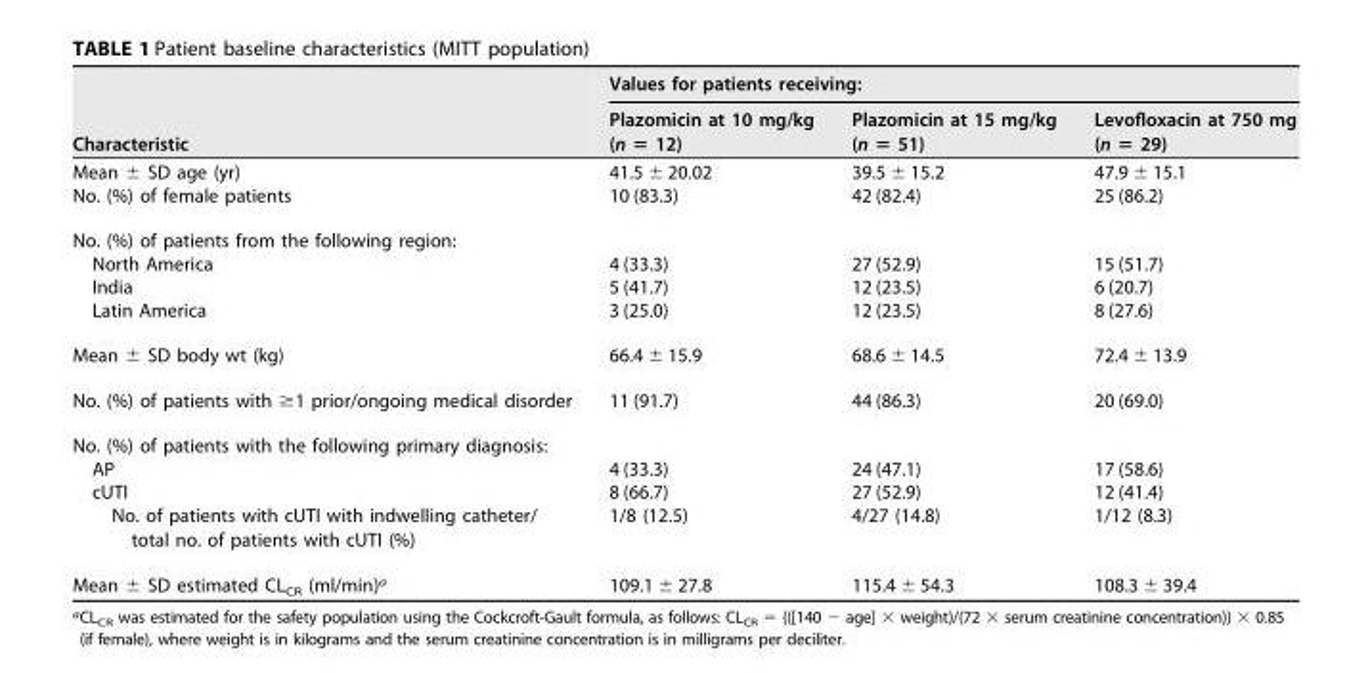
<table><thead><tr><td rowspan="2">Characteristic</td><td colspan="3">Values for patients receiving:</td></tr><tr><td>Plazomicin at 10 mg/kg (n = 12)</td><td>Plazomicin at 15 mg/kg (n = 51)</td><td>Levofloxacin at 750 mg (n = 29)</td></tr></thead><tbody><tr><td>Mean ± SD age (yr)</td><td>41.5 ± 20.02</td><td>39.5 ± 15.2</td><td>47.9 ± 15.1</td></tr><tr><td>No. (%) of female patients</td><td>10 (83.3)</td><td>42 (82.4)</td><td>25 (86.2)</td></tr><tr><td colspan="4">No. (%) of patients from the following region:</td></tr><tr><td>North America</td><td>4 (33.3)</td><td>27 (52.9)</td><td>15 (51.7)</td></tr><tr><td>India</td><td>5 (41.7)</td><td>12 (23.5)</td><td>6 (20.7)</td></tr><tr><td>Latin America</td><td>3 (25.0)</td><td>12 (23.5)</td><td>8 (27.6)</td></tr><tr><td>Mean ± SD body wt (kg)</td><td>66.4 ± 15.9</td><td>68.6 ± 14.5</td><td>72.4 ± 13.9</td></tr><tr><td>No. (%) of patients with ≥1 prior/ongoing medical disorder</td><td>11 (91.7)</td><td>44 (86.3)</td><td>20 (69.0)</td></tr><tr><td colspan="4">No. (%) of patients with the following primary diagnosis:</td></tr><tr><td>AP</td><td>4 (33.3)</td><td>24 (47.1)</td><td>17 (58.6)</td></tr><tr><td>cUTI</td><td>8 (66.7)</td><td>27 (52.9)</td><td>12 (41.4)</td></tr><tr><td>No. of patients with cUTI with indwelling catheter/ total no. of patients with cUTI (%)</td><td>1/8 (12.5)</td><td>4/27 (14.8)</td><td>1/12 (8.3)</td></tr><tr><td>Mean ± SD estimated CL<sub>CR</sub> (ml/min)<sup>a</sup></td><td>109.1 ± 27.8</td><td>115.4 ± 54.3</td><td>108.3 ± 39.4</td></tr></tbody></table>